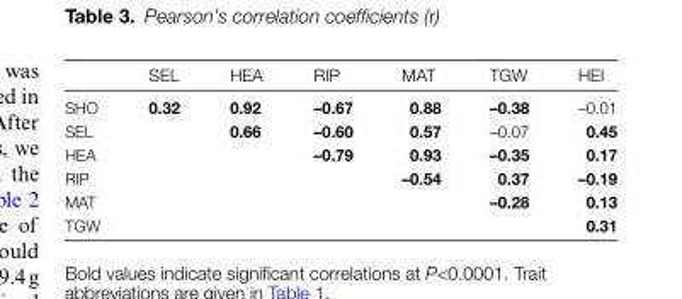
<table><thead><tr><td></td><td>SEL</td><td>HEA</td><td>RIP</td><td>MAT</td><td>TGW</td><td>HEI</td></tr></thead><tbody><tr><td>SHO</td><td>0.32</td><td>0.92</td><td>–0.67</td><td>0.88</td><td>–0.38</td><td>–0.01</td></tr><tr><td>SEL</td><td></td><td>0.66</td><td>–0.60</td><td>0.57</td><td>–0.07</td><td>0.45</td></tr><tr><td>HEA</td><td></td><td></td><td>–0.79</td><td>0.93</td><td>–0.35</td><td>0.17</td></tr><tr><td>RIP</td><td></td><td></td><td></td><td>–0.54</td><td>0.37</td><td>–0.19</td></tr><tr><td>MAT</td><td></td><td></td><td></td><td></td><td>–0.28</td><td>0.13</td></tr><tr><td>TGW</td><td></td><td></td><td></td><td></td><td></td><td>0.31</td></tr></tbody></table>